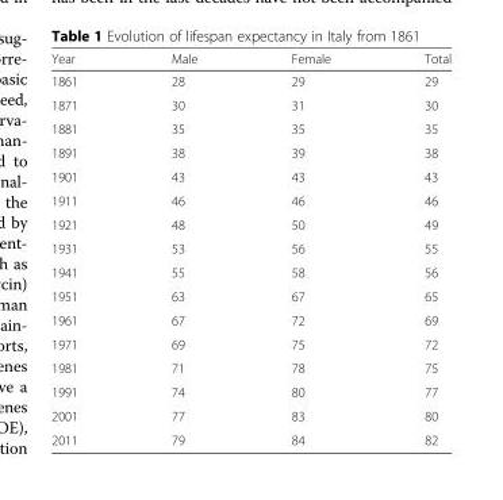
<table><thead><tr><td>Year</td><td>Male</td><td>Female</td><td>Total</td></tr></thead><tbody><tr><td>1861</td><td>28</td><td>29</td><td>29</td></tr><tr><td>1871</td><td>30</td><td>31</td><td>30</td></tr><tr><td>1881</td><td>35</td><td>35</td><td>35</td></tr><tr><td>1891</td><td>38</td><td>39</td><td>38</td></tr><tr><td>1901</td><td>43</td><td>43</td><td>43</td></tr><tr><td>1911</td><td>46</td><td>46</td><td>46</td></tr><tr><td>1921</td><td>48</td><td>50</td><td>49</td></tr><tr><td>1931</td><td>53</td><td>56</td><td>55</td></tr><tr><td>1941</td><td>55</td><td>58</td><td>56</td></tr><tr><td>1951</td><td>63</td><td>67</td><td>65</td></tr><tr><td>1961</td><td>67</td><td>72</td><td>69</td></tr><tr><td>1971</td><td>69</td><td>75</td><td>72</td></tr><tr><td>1981</td><td>71</td><td>78</td><td>75</td></tr><tr><td>1991</td><td>74</td><td>80</td><td>77</td></tr><tr><td>2001</td><td>77</td><td>83</td><td>80</td></tr><tr><td>2011</td><td>79</td><td>84</td><td>82</td></tr></tbody></table>